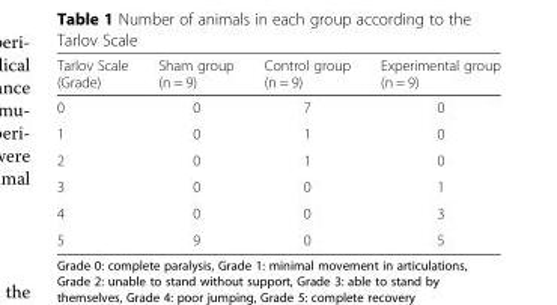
<table><thead><tr><td>Tarlov Scale (Grade)</td><td>Sham group (n = 9)</td><td>Control group (n = 9)</td><td>Experimental group (n = 9)</td></tr></thead><tbody><tr><td>0</td><td>0</td><td>7</td><td>0</td></tr><tr><td>1</td><td>0</td><td>1</td><td>0</td></tr><tr><td>2</td><td>0</td><td>1</td><td>0</td></tr><tr><td>3</td><td>0</td><td>0</td><td>1</td></tr><tr><td>4</td><td>0</td><td>0</td><td>3</td></tr><tr><td>5</td><td>9</td><td>0</td><td>5</td></tr></tbody></table>